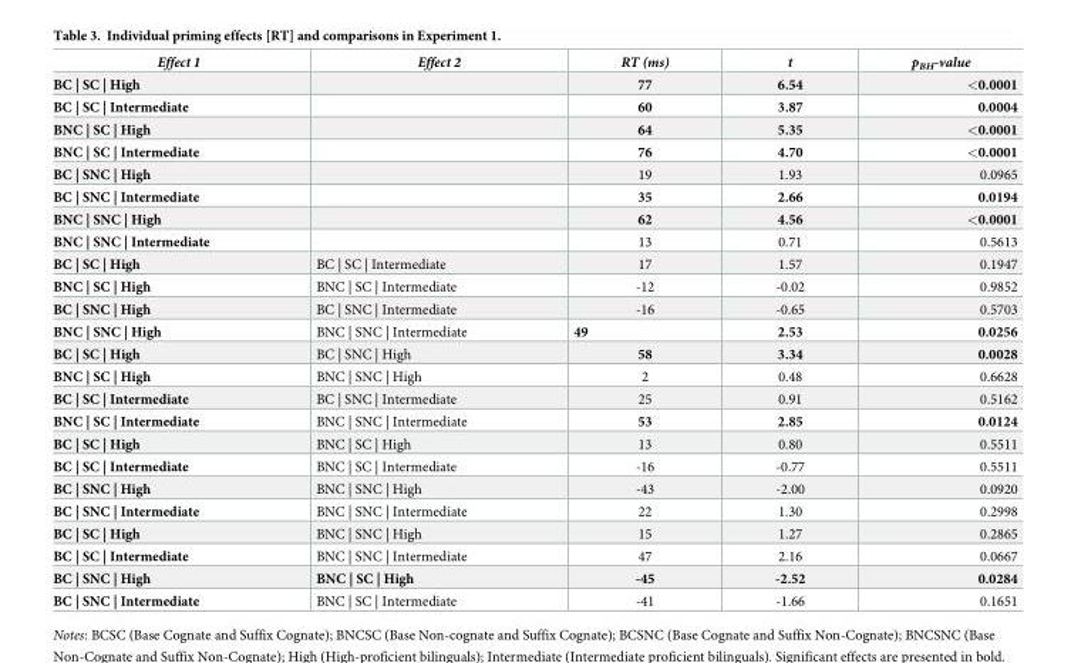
<table><thead><tr><td>Effect 1</td><td>Effect 2</td><td>RT (ms)</td><td>t</td><td>p<sub>BH</sub>-value</td></tr></thead><tbody><tr><td>BC | SC | High</td><td></td><td>77</td><td>6.54</td><td>&lt;0.0001</td></tr><tr><td>BC | SC | Intermediate</td><td></td><td>60</td><td>3.87</td><td>0.0004</td></tr><tr><td>BNC | SC | High</td><td></td><td>64</td><td>5.35</td><td>&lt;0.0001</td></tr><tr><td>BNC | SC | Intermediate</td><td></td><td>76</td><td>4.70</td><td>&lt;0.0001</td></tr><tr><td>BC | SNC | High</td><td></td><td>19</td><td>1.93</td><td>0.0965</td></tr><tr><td>BC | SNC | Intermediate</td><td></td><td>35</td><td>2.66</td><td>0.0194</td></tr><tr><td>BNC | SNC | High</td><td></td><td>62</td><td>4.56</td><td>&lt;0.0001</td></tr><tr><td>BNC | SNC | Intermediate</td><td></td><td>13</td><td>0.71</td><td>0.5613</td></tr><tr><td>BC | SC | High</td><td>BC | SC | Intermediate</td><td>17</td><td>1.57</td><td>0.1947</td></tr><tr><td>BNC | SC | High</td><td>BNC | SC | Intermediate</td><td>-12</td><td>-0.02</td><td>0.9852</td></tr><tr><td>BC | SNC | High</td><td>BC | SNC | Intermediate</td><td>-16</td><td>-0.65</td><td>0.5703</td></tr><tr><td>BNC | SNC | High</td><td>BNC | SNC | Intermediate</td><td>49</td><td>2.53</td><td>0.0256</td></tr><tr><td>BC | SC | High</td><td>BC | SNC | High</td><td>58</td><td>3.34</td><td>0.0028</td></tr><tr><td>BNC | SC | High</td><td>BNC | SNC | High</td><td>2</td><td>0.48</td><td>0.6628</td></tr><tr><td>BC | SC | Intermediate</td><td>BC | SNC | Intermediate</td><td>25</td><td>0.91</td><td>0.5162</td></tr><tr><td>BNC | SC | Intermediate</td><td>BNC | SNC | Intermediate</td><td>53</td><td>2.85</td><td>0.0124</td></tr><tr><td>BC | SC | High</td><td>BNC | SC | High</td><td>13</td><td>0.80</td><td>0.5511</td></tr><tr><td>BC | SC | Intermediate</td><td>BNC | SC | Intermediate</td><td>-16</td><td>-0.77</td><td>0.5511</td></tr><tr><td>BC | SNC | High</td><td>BNC | SNC | High</td><td>-43</td><td>-2.00</td><td>0.0920</td></tr><tr><td>BC | SNC | Intermediate</td><td>BNC | SNC | Intermediate</td><td>22</td><td>1.30</td><td>0.2998</td></tr><tr><td>BC | SC | High</td><td>BNC | SNC | High</td><td>15</td><td>1.27</td><td>0.2865</td></tr><tr><td>BC | SC | Intermediate</td><td>BNC | SNC | Intermediate</td><td>47</td><td>2.16</td><td>0.0667</td></tr><tr><td>BC | SNC | High</td><td>BNC | SC | High</td><td>-45</td><td>-2.52</td><td>0.0284</td></tr><tr><td>BC | SNC | Intermediate</td><td>BNC | SC | Intermediate</td><td>-41</td><td>-1.66</td><td>0.1651</td></tr></tbody></table>